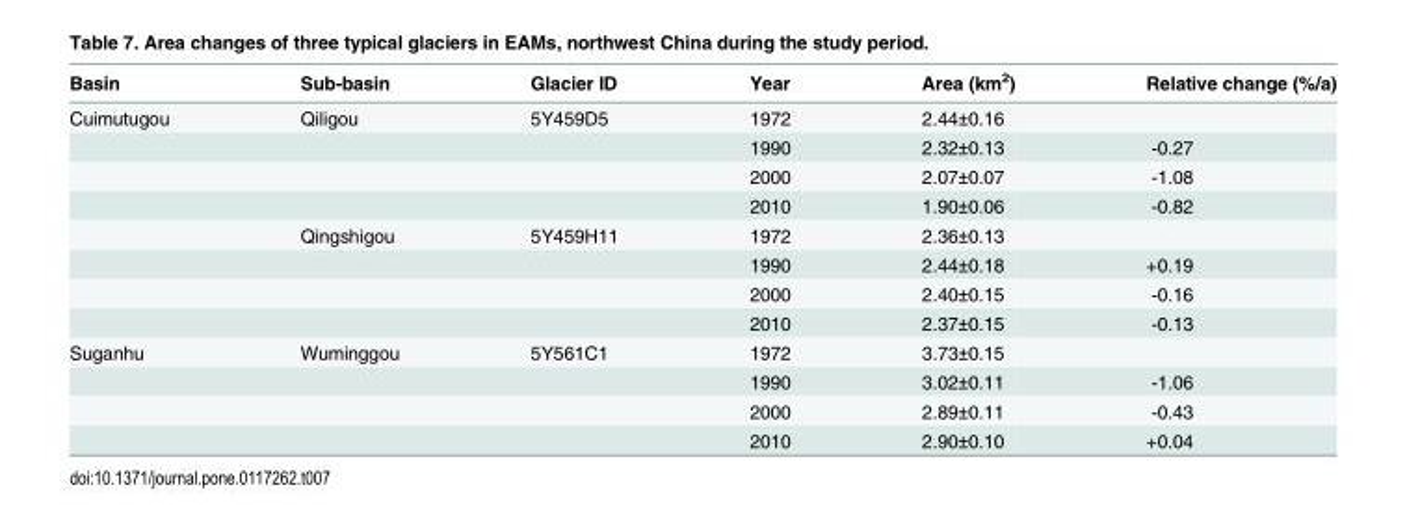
<table><thead><tr><td>Basin</td><td>Sub-basin</td><td>Glacier ID</td><td>Year</td><td>Area (km<sup>2</sup>)</td><td>Relative change (%/a)</td></tr></thead><tbody><tr><td rowspan="8">Cuimutugou</td><td>Qiligou</td><td>5Y459D5</td><td>1972</td><td>2.44±0.16</td><td></td></tr><tr><td></td><td></td><td>1990</td><td>2.32±0.13</td><td>-0.27</td></tr><tr><td></td><td></td><td>2000</td><td>2.07±0.07</td><td>-1.08</td></tr><tr><td></td><td></td><td>2010</td><td>1.90±0.06</td><td>-0.82</td></tr><tr><td>Qingshigou</td><td>5Y459H11</td><td>1972</td><td>2.36±0.13</td><td></td></tr><tr><td></td><td></td><td>1990</td><td>2.44±0.18</td><td>+0.19</td></tr><tr><td></td><td></td><td>2000</td><td>2.40±0.15</td><td>-0.16</td></tr><tr><td></td><td></td><td>2010</td><td>2.37±0.15</td><td>-0.13</td></tr><tr><td rowspan="4">Suganhu</td><td>Wuminggou</td><td>5Y561C1</td><td>1972</td><td>3.73±0.15</td><td></td></tr><tr><td></td><td></td><td>1990</td><td>3.02±0.11</td><td>-1.06</td></tr><tr><td></td><td></td><td>2000</td><td>2.89±0.11</td><td>-0.43</td></tr><tr><td></td><td></td><td>2010</td><td>2.90±0.10</td><td>+0.04</td></tr></tbody></table>